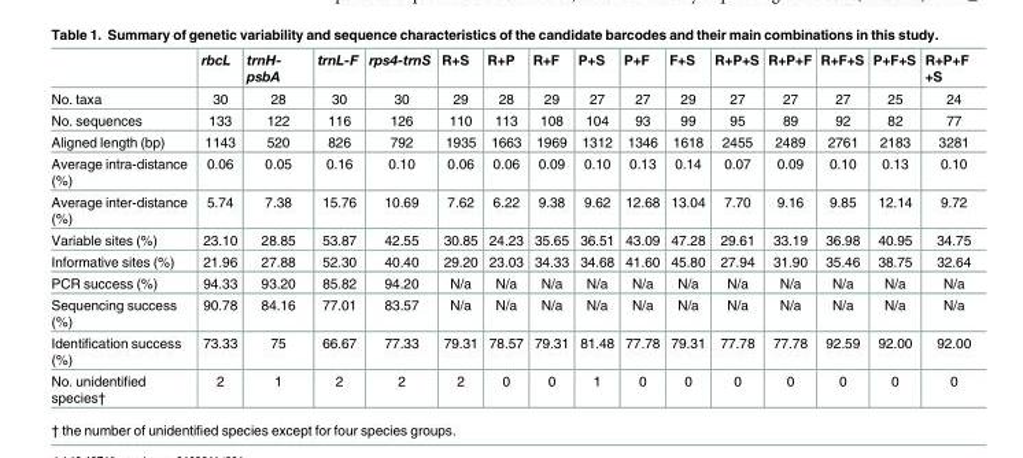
<table><thead><tr><td></td><td>rbcL</td><td>trnH- psbA</td><td>trnL-F</td><td>rps4-trnS</td><td>R+S</td><td>R+P</td><td>R+F</td><td>P+S</td><td>P+F</td><td>F+S</td><td>R+P+S</td><td>R+P+F</td><td>R+F+S</td><td>P+F+S</td><td>R+P+F +S</td></tr></thead><tbody><tr><td>No. taxa</td><td>30</td><td>28</td><td>30</td><td>30</td><td>29</td><td>28</td><td>29</td><td>27</td><td>27</td><td>29</td><td>27</td><td>27</td><td>27</td><td>25</td><td>24</td></tr><tr><td>No. sequences</td><td>133</td><td>122</td><td>116</td><td>126</td><td>110</td><td>113</td><td>108</td><td>104</td><td>93</td><td>99</td><td>95</td><td>89</td><td>92</td><td>82</td><td>77</td></tr><tr><td>Aligned length (bp)</td><td>1143</td><td>520</td><td>826</td><td>792</td><td>1935</td><td>1663</td><td>1969</td><td>1312</td><td>1346</td><td>1618</td><td>2455</td><td>2489</td><td>2761</td><td>2183</td><td>3281</td></tr><tr><td>Average intra-distance (%)</td><td>0.06</td><td>0.05</td><td>0.16</td><td>0.10</td><td>0.06</td><td>0.06</td><td>0.09</td><td>0.10</td><td>0.13</td><td>0.14</td><td>0.07</td><td>0.09</td><td>0.10</td><td>0.13</td><td>0.10</td></tr><tr><td>Average inter-distance (%)</td><td>5.74</td><td>7.38</td><td>15.76</td><td>10.69</td><td>7.62</td><td>6.22</td><td>9.38</td><td>9.62</td><td>12.68</td><td>13.04</td><td>7.70</td><td>9.16</td><td>9.85</td><td>12.14</td><td>9.72</td></tr><tr><td>Variable sites (%)</td><td>23.10</td><td>28.85</td><td>53.87</td><td>42.55</td><td>30.85</td><td>24.23</td><td>35.65</td><td>36.51</td><td>43.09</td><td>47.28</td><td>29.61</td><td>33.19</td><td>36.98</td><td>40.95</td><td>34.75</td></tr><tr><td>Informative sites (%)</td><td>21.96</td><td>27.88</td><td>52.30</td><td>40.40</td><td>29.20</td><td>23.03</td><td>34.33</td><td>34.68</td><td>41.60</td><td>45.80</td><td>27.94</td><td>31.90</td><td>35.46</td><td>38.75</td><td>32.64</td></tr><tr><td>PCR success (%)</td><td>94.33</td><td>93.20</td><td>85.82</td><td>94.20</td><td>N/a</td><td>N/a</td><td>N/a</td><td>N/a</td><td>N/a</td><td>N/a</td><td>N/a</td><td>N/a</td><td>N/a</td><td>N/a</td><td>N/a</td></tr><tr><td>Sequencing success (%)</td><td>90.78</td><td>84.16</td><td>77.01</td><td>83.57</td><td>N/a</td><td>N/a</td><td>N/a</td><td>N/a</td><td>N/a</td><td>N/a</td><td>N/a</td><td>N/a</td><td>N/a</td><td>N/a</td><td>N/a</td></tr><tr><td>Identification success (%)</td><td>73.33</td><td>75</td><td>66.67</td><td>77.33</td><td>79.31</td><td>78.57</td><td>79.31</td><td>81.48</td><td>77.78</td><td>79.31</td><td>77.78</td><td>77.78</td><td>92.59</td><td>92.00</td><td>92.00</td></tr><tr><td>No. unidentified species†</td><td>2</td><td>1</td><td>2</td><td>2</td><td>2</td><td>0</td><td>0</td><td>1</td><td>0</td><td>0</td><td>0</td><td>0</td><td>0</td><td>0</td><td>0</td></tr></tbody></table>